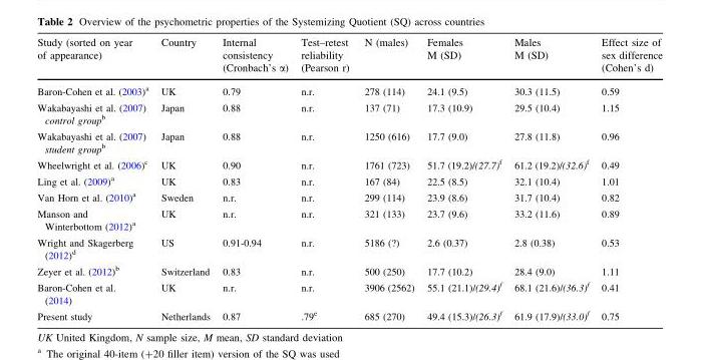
<table><thead><tr><td>Study (sorted on year of appearance)</td><td>Country</td><td>Internal consistency (Cronbach’s α)</td><td>Test–retest reliability (Pearson r)</td><td>N (males)</td><td>Females M (SD)</td><td>Males M (SD)</td><td>Effect size of sex difference (Cohen’s d)</td></tr></thead><tbody><tr><td>Baron-Cohen et al. (2003)<sup>a</sup></td><td>UK</td><td>0.79</td><td>n.r.</td><td>278 (114)</td><td>24.1 (9.5)</td><td>30.3 (11.5)</td><td>0.59</td></tr><tr><td>Wakabayashi et al. (2007) control group<sup>b</sup></td><td>Japan</td><td>0.88</td><td>n.r.</td><td>137 (71)</td><td>17.3 (10.9)</td><td>29.5 (10.4)</td><td>1.15</td></tr><tr><td>Wakabayashi et al. (2007) student group<sup>b</sup></td><td>Japan</td><td>0.88</td><td>n.r.</td><td>1250 (616)</td><td>17.7 (9.0)</td><td>27.8 (11.8)</td><td>0.96</td></tr><tr><td>Wheelwright et al. (2006)<sup>c</sup></td><td>UK</td><td>0.90</td><td>n.r.</td><td>1761 (723)</td><td>51.7 (19.2)/(27.7)<sup>f</sup></td><td>61.2 (19.2)/(32.6)<sup>f</sup></td><td>0.49</td></tr><tr><td>Ling et al. (2009)<sup>a</sup></td><td>UK</td><td>0.83</td><td>n.r.</td><td>167 (84)</td><td>22.5 (8.5)</td><td>32.1 (10.4)</td><td>1.01</td></tr><tr><td>Van Horn et al. (2010)<sup>a</sup></td><td>Sweden</td><td>n.r.</td><td>n.r.</td><td>299 (114)</td><td>23.9 (8.6)</td><td>31.7 (10.4)</td><td>0.82</td></tr><tr><td>Manson and Winterbottom (2012)<sup>a</sup></td><td>UK</td><td>n.r.</td><td>n.r.</td><td>321 (133)</td><td>23.7 (9.6)</td><td>33.2 (11.6)</td><td>0.89</td></tr><tr><td>Wright and Skagerberg (2012)<sup>d</sup></td><td>US</td><td>0.91-0.94</td><td>n.r.</td><td>5186 (?)</td><td>2.6 (0.37)</td><td>2.8 (0.38)</td><td>0.53</td></tr><tr><td>Zeyer et al. (2012)<sup>b</sup></td><td>Switzerland</td><td>0.83</td><td>n.r.</td><td>500 (250)</td><td>17.7 (10.2)</td><td>28.4 (9.0)</td><td>1.11</td></tr><tr><td>Baron-Cohen et al. (2014)</td><td>UK</td><td>n.r.</td><td>n.r.</td><td>3906 (2562)</td><td>55.1 (21.1)/(29.4)<sup>f</sup></td><td>68.1 (21.6)/(36.3)<sup>f</sup></td><td>0.41</td></tr><tr><td>Present study</td><td>Netherlands</td><td>0.87</td><td>.79<sup>e</sup></td><td>685 (270)</td><td>49.4 (15.3)/(26.3)<sup>f</sup></td><td>61.9 (17.9)/(33.0)<sup>f</sup></td><td>0.75</td></tr></tbody></table>